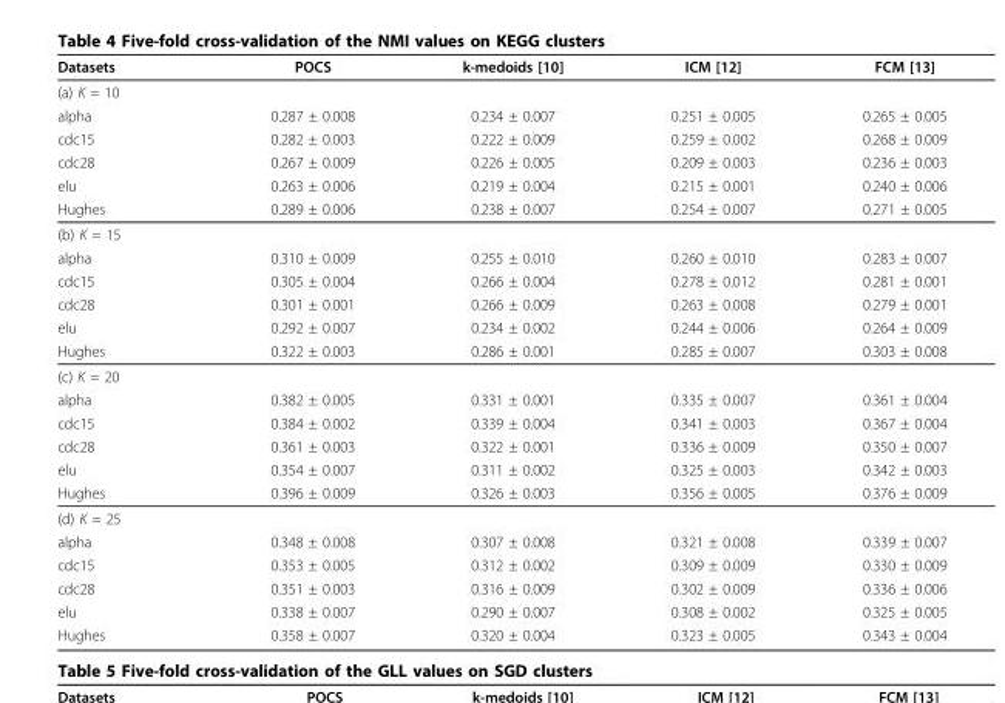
<table><thead><tr><td>Datasets</td><td>POCS</td><td>k-medoids [10]</td><td>ICM [12]</td><td>FCM [13]</td></tr></thead><tbody><tr><td colspan="5">(a) K = 10</td></tr><tr><td>alpha</td><td>0.287 ± 0.008</td><td>0.234 ± 0.007</td><td>0.251 ± 0.005</td><td>0.265 ± 0.005</td></tr><tr><td>cdc15</td><td>0.282 ± 0.003</td><td>0.222 ± 0.009</td><td>0.259 ± 0.002</td><td>0.268 ± 0.009</td></tr><tr><td>cdc28</td><td>0.267 ± 0.009</td><td>0.226 ± 0.005</td><td>0.209 ± 0.003</td><td>0.236 ± 0.003</td></tr><tr><td>elu</td><td>0.263 ± 0.006</td><td>0.219 ± 0.004</td><td>0.215 ± 0.001</td><td>0.240 ± 0.006</td></tr><tr><td>Hughes</td><td>0.289 ± 0.006</td><td>0.238 ± 0.007</td><td>0.254 ± 0.007</td><td>0.271 ± 0.005</td></tr><tr><td colspan="5">(b) K = 15</td></tr><tr><td>alpha</td><td>0.310 ± 0.009</td><td>0.255 ± 0.010</td><td>0.260 ± 0.010</td><td>0.283 ± 0.007</td></tr><tr><td>cdc15</td><td>0.305 ± 0.004</td><td>0.266 ± 0.004</td><td>0.278 ± 0.012</td><td>0.281 ± 0.001</td></tr><tr><td>cdc28</td><td>0.301 ± 0.001</td><td>0.266 ± 0.009</td><td>0.263 ± 0.008</td><td>0.279 ± 0.001</td></tr><tr><td>elu</td><td>0.292 ± 0.007</td><td>0.234 ± 0.002</td><td>0.244 ± 0.006</td><td>0.264 ± 0.009</td></tr><tr><td>Hughes</td><td>0.322 ± 0.003</td><td>0.286 ± 0.001</td><td>0.285 ± 0.007</td><td>0.303 ± 0.008</td></tr><tr><td colspan="5">(c) K = 20</td></tr><tr><td>alpha</td><td>0.382 ± 0.005</td><td>0.331 ± 0.001</td><td>0.335 ± 0.007</td><td>0.361 ± 0.004</td></tr><tr><td>cdc15</td><td>0.384 ± 0.002</td><td>0.339 ± 0.004</td><td>0.341 ± 0.003</td><td>0.367 ± 0.004</td></tr><tr><td>cdc28</td><td>0.361 ± 0.003</td><td>0.322 ± 0.001</td><td>0.336 ± 0.009</td><td>0.350 ± 0.007</td></tr><tr><td>elu</td><td>0.354 ± 0.007</td><td>0.311 ± 0.002</td><td>0.325 ± 0.003</td><td>0.342 ± 0.003</td></tr><tr><td>Hughes</td><td>0.396 ± 0.009</td><td>0.326 ± 0.003</td><td>0.356 ± 0.005</td><td>0.376 ± 0.009</td></tr><tr><td colspan="5">(d) K = 25</td></tr><tr><td>alpha</td><td>0.348 ± 0.008</td><td>0.307 ± 0.008</td><td>0.321 ± 0.008</td><td>0.339 ± 0.007</td></tr><tr><td>cdc15</td><td>0.353 ± 0.005</td><td>0.312 ± 0.002</td><td>0.309 ± 0.009</td><td>0.330 ± 0.009</td></tr><tr><td>cdc28</td><td>0.351 ± 0.003</td><td>0.316 ± 0.009</td><td>0.302 ± 0.009</td><td>0.336 ± 0.006</td></tr><tr><td>elu</td><td>0.338 ± 0.007</td><td>0.290 ± 0.007</td><td>0.308 ± 0.002</td><td>0.325 ± 0.005</td></tr><tr><td>Hughes</td><td>0.358 ± 0.007</td><td>0.320 ± 0.004</td><td>0.323 ± 0.005</td><td>0.343 ± 0.004</td></tr></tbody></table>